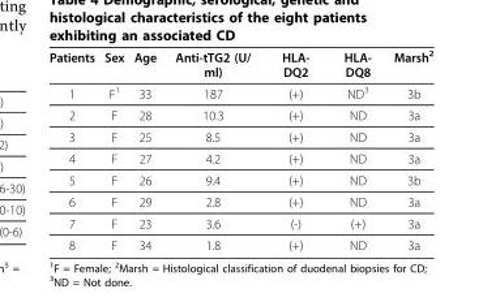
<table><thead><tr><td>Patients</td><td>Sex</td><td>Age</td><td>Anti-tTG2 (U/ ml)</td><td>HLA- DQ2</td><td>HLA- DQ8</td><td>Marsh<sup>2</sup></td></tr></thead><tbody><tr><td>1</td><td>F<sup>1</sup></td><td>33</td><td>187</td><td>(+)</td><td>ND<sup>3</sup></td><td>3b</td></tr><tr><td>2</td><td>F</td><td>28</td><td>10.3</td><td>(+)</td><td>ND</td><td>3a</td></tr><tr><td>3</td><td>F</td><td>25</td><td>8.5</td><td>(+)</td><td>ND</td><td>3a</td></tr><tr><td>4</td><td>F</td><td>27</td><td>4.2</td><td>(+)</td><td>ND</td><td>3a</td></tr><tr><td>5</td><td>F</td><td>26</td><td>9.4</td><td>(+)</td><td>ND</td><td>3b</td></tr><tr><td>6</td><td>F</td><td>29</td><td>2.8</td><td>(+)</td><td>ND</td><td>3a</td></tr><tr><td>7</td><td>F</td><td>23</td><td>3.6</td><td>(-)</td><td>(+)</td><td>3a</td></tr><tr><td>8</td><td>F</td><td>34</td><td>1.8</td><td>(+)</td><td>ND</td><td>3a</td></tr></tbody></table>